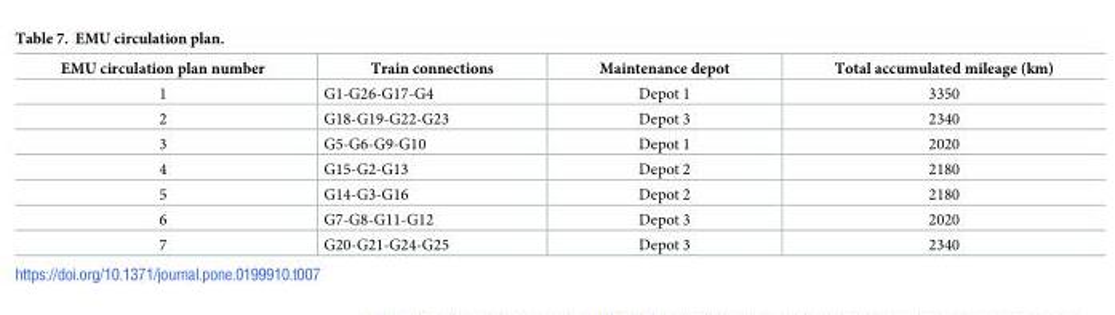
<table><thead><tr><td>EMU circulation plan number</td><td>Train connections</td><td>Maintenance depot</td><td>Total accumulated mileage (km)</td></tr></thead><tbody><tr><td>1</td><td>G1-G26-G17-G4</td><td>Depot 1</td><td>3350</td></tr><tr><td>2</td><td>G18-G19-G22-G23</td><td>Depot 3</td><td>2340</td></tr><tr><td>3</td><td>G5-G6-G9-G10</td><td>Depot 1</td><td>2020</td></tr><tr><td>4</td><td>G15-G2-G13</td><td>Depot 2</td><td>2180</td></tr><tr><td>5</td><td>G14-G3-G16</td><td>Depot 2</td><td>2180</td></tr><tr><td>6</td><td>G7-G8-G11-G12</td><td>Depot 3</td><td>2020</td></tr><tr><td>7</td><td>G20-G21-G24-G25</td><td>Depot 3</td><td>2340</td></tr></tbody></table>